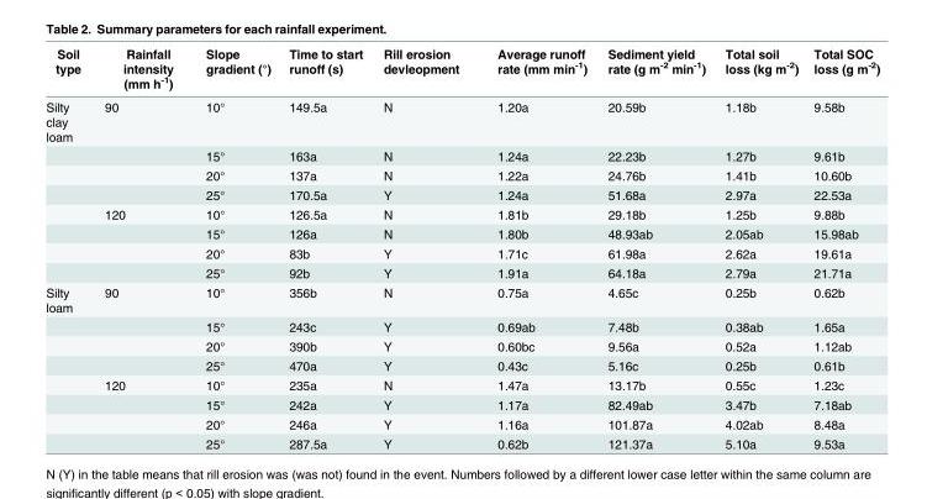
<table><thead><tr><td>Soil type</td><td>Rainfall intensity (mm h<sup>-1</sup>)</td><td>Slope gradient (°)</td><td>Time to start runoff (s)</td><td>Rill erosion devleopment</td><td>Average runoff rate (mm min<sup>-1</sup>)</td><td>Sediment yield rate (g m<sup>-2</sup> min<sup>-1</sup>)</td><td>Total soil loss (kg m<sup>-2</sup>)</td><td>Total SOC loss (g m<sup>-2</sup>)</td></tr></thead><tbody><tr><td rowspan="8">Silty clay loam</td><td>90</td><td>10°</td><td>149.5a</td><td>N</td><td>1.20a</td><td>20.59b</td><td>1.18b</td><td>9.58b</td></tr><tr><td></td><td>15°</td><td>163a</td><td>N</td><td>1.24a</td><td>22.23b</td><td>1.27b</td><td>9.61b</td></tr><tr><td></td><td>20°</td><td>137a</td><td>N</td><td>1.22a</td><td>24.76b</td><td>1.41b</td><td>10.60b</td></tr><tr><td></td><td>25°</td><td>170.5a</td><td>Y</td><td>1.24a</td><td>51.68a</td><td>2.97a</td><td>22.53a</td></tr><tr><td>120</td><td>10°</td><td>126.5a</td><td>N</td><td>1.81b</td><td>29.18b</td><td>1.25b</td><td>9.88b</td></tr><tr><td></td><td>15°</td><td>126a</td><td>N</td><td>1.80b</td><td>48.93ab</td><td>2.05ab</td><td>15.98ab</td></tr><tr><td></td><td>20°</td><td>83b</td><td>Y</td><td>1.71c</td><td>61.98a</td><td>2.62a</td><td>19.61a</td></tr><tr><td></td><td>25°</td><td>92b</td><td>Y</td><td>1.91a</td><td>64.18a</td><td>2.79a</td><td>21.71a</td></tr><tr><td rowspan="8">Silty loam</td><td>90</td><td>10°</td><td>356b</td><td>N</td><td>0.75a</td><td>4.65c</td><td>0.25b</td><td>0.62b</td></tr><tr><td></td><td>15°</td><td>243c</td><td>Y</td><td>0.69ab</td><td>7.48b</td><td>0.38ab</td><td>1.65a</td></tr><tr><td></td><td>20°</td><td>390b</td><td>Y</td><td>0.60bc</td><td>9.56a</td><td>0.52a</td><td>1.12ab</td></tr><tr><td></td><td>25°</td><td>470a</td><td>Y</td><td>0.43c</td><td>5.16c</td><td>0.25b</td><td>0.61b</td></tr><tr><td>120</td><td>10°</td><td>235a</td><td>N</td><td>1.47a</td><td>13.17b</td><td>0.55c</td><td>1.23c</td></tr><tr><td></td><td>15°</td><td>242a</td><td>Y</td><td>1.17a</td><td>82.49ab</td><td>3.47b</td><td>7.18ab</td></tr><tr><td></td><td>20°</td><td>246a</td><td>Y</td><td>1.16a</td><td>101.87a</td><td>4.02ab</td><td>8.48a</td></tr><tr><td></td><td>25°</td><td>287.5a</td><td>Y</td><td>0.62b</td><td>121.37a</td><td>5.10a</td><td>9.53a</td></tr></tbody></table>